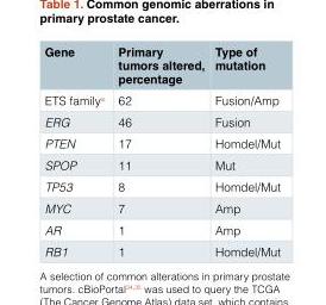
<table><thead><tr><td>Gene</td><td>Primary tumors altered, percentage</td><td>Type of mutation</td></tr></thead><tbody><tr><td>ETS family<sup>a</sup></td><td>62</td><td>Fusion/Amp</td></tr><tr><td>ERG</td><td>46</td><td>Fusion</td></tr><tr><td>PTEN</td><td>17</td><td>Homdel/Mut</td></tr><tr><td>SPOP</td><td>11</td><td>Mut</td></tr><tr><td>TP53</td><td>8</td><td>Homdel/Mut</td></tr><tr><td>MYC</td><td>7</td><td>Amp</td></tr><tr><td>AR</td><td>1</td><td>Amp</td></tr><tr><td>RB1</td><td>1</td><td>Homdel/Mut</td></tr></tbody></table>